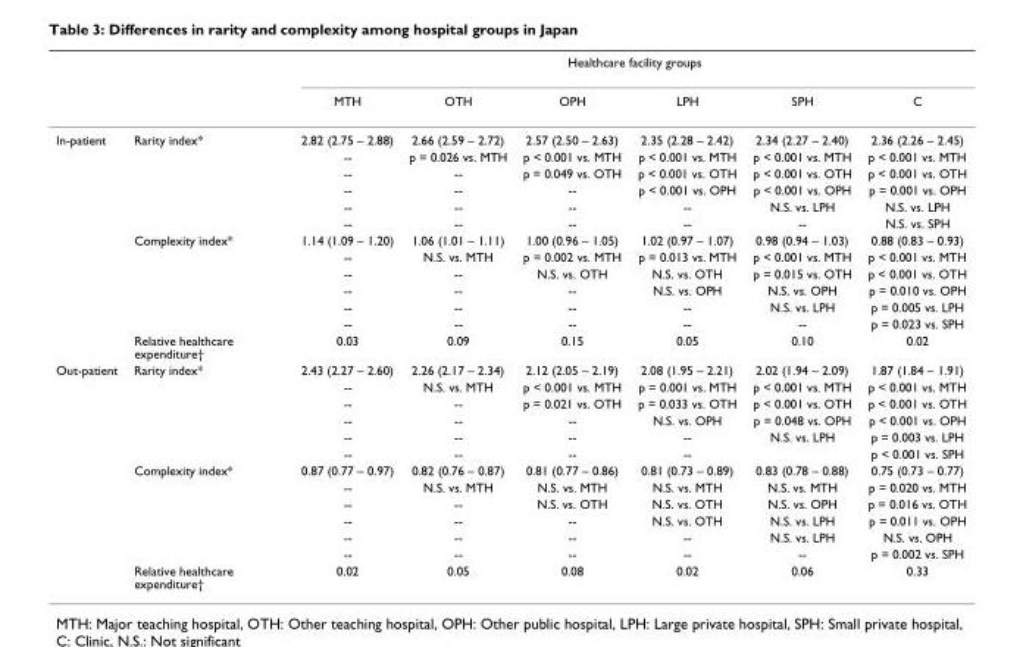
<table><thead><tr><td rowspan="2"></td><td rowspan="2"></td><td colspan="6">Healthcare facility groups</td></tr><tr><td>MTH</td><td>OTH</td><td>OPH</td><td>LPH</td><td>SPH</td><td>C</td></tr></thead><tbody><tr><td rowspan="13">In-patient</td><td>Rarity index*</td><td>2.82 (2.75 – 2.88)</td><td>2.66 (2.59 – 2.72)</td><td>2.57 (2.50 – 2.63)</td><td>2.35 (2.28 – 2.42)</td><td>2.34 (2.27 – 2.40)</td><td>2.36 (2.26 – 2.45)</td></tr><tr><td></td><td>--</td><td>p = 0.026 vs. MTH</td><td>p &lt; 0.001 vs. MTH</td><td>p &lt; 0.001 vs. MTH</td><td>p &lt; 0.001 vs. MTH</td><td>p &lt; 0.001 vs. MTH</td></tr><tr><td></td><td>--</td><td>--</td><td>p = 0.049 vs. OTH</td><td>p &lt; 0.001 vs. OTH</td><td>p &lt; 0.001 vs. OTH</td><td>p &lt; 0.001 vs. OTH</td></tr><tr><td></td><td>--</td><td>--</td><td>--</td><td>p &lt; 0.001 vs. OPH</td><td>p &lt; 0.001 vs. OPH</td><td>p = 0.001 vs. OPH</td></tr><tr><td></td><td>--</td><td>--</td><td>--</td><td>--</td><td>N.S. vs. LPH</td><td>N.S. vs. LPH</td></tr><tr><td></td><td>--</td><td>--</td><td>--</td><td>--</td><td>--</td><td>N.S. vs. SPH</td></tr><tr><td>Complexity index*</td><td>1.14 (1.09 – 1.20)</td><td>1.06 (1.01 – 1.11)</td><td>1.00 (0.96 – 1.05)</td><td>1.02 (0.97 – 1.07)</td><td>0.98 (0.94 – 1.03)</td><td>0.88 (0.83 – 0.93)</td></tr><tr><td></td><td>--</td><td>N.S. vs. MTH</td><td>p = 0.002 vs. MTH</td><td>p = 0.013 vs. MTH</td><td>p &lt; 0.001 vs. MTH</td><td>p &lt; 0.001 vs. MTH</td></tr><tr><td></td><td>--</td><td>--</td><td>N.S. vs. OTH</td><td>N.S. vs. OTH</td><td>p = 0.015 vs. OTH</td><td>p &lt; 0.001 vs. OTH</td></tr><tr><td></td><td>--</td><td>--</td><td>--</td><td>N.S. vs. OPH</td><td>N.S. vs. OPH</td><td>p = 0.010 vs. OPH</td></tr><tr><td></td><td>--</td><td>--</td><td>--</td><td>--</td><td>N.S. vs. LPH</td><td>p = 0.005 vs. LPH</td></tr><tr><td></td><td>--</td><td>--</td><td>--</td><td>--</td><td>--</td><td>p = 0.023 vs. SPH</td></tr><tr><td>Relative healthcare expenditure†</td><td>0.03</td><td>0.09</td><td>0.15</td><td>0.05</td><td>0.10</td><td>0.02</td></tr><tr><td rowspan="13">Out-patient</td><td>Rarity index*</td><td>2.43 (2.27 – 2.60)</td><td>2.26 (2.17 – 2.34)</td><td>2.12 (2.05 – 2.19)</td><td>2.08 (1.95 – 2.21)</td><td>2.02 (1.94 – 2.09)</td><td>1.87 (1.84 – 1.91)</td></tr><tr><td></td><td>--</td><td>N.S. vs. MTH</td><td>p &lt; 0.001 vs. MTH</td><td>p = 0.001 vs. MTH</td><td>p &lt; 0.001 vs. MTH</td><td>p &lt; 0.001 vs. MTH</td></tr><tr><td></td><td>--</td><td>--</td><td>p = 0.021 vs. OTH</td><td>p = 0.033 vs. OTH</td><td>p &lt; 0.001 vs. OTH</td><td>p &lt; 0.001 vs. OTH</td></tr><tr><td></td><td>--</td><td>--</td><td>--</td><td>N.S. vs. OPH</td><td>p = 0.048 vs. OPH</td><td>p &lt; 0.001 vs. OPH</td></tr><tr><td></td><td>--</td><td>--</td><td>--</td><td>--</td><td>N.S. vs. LPH</td><td>p = 0.003 vs. LPH</td></tr><tr><td></td><td>--</td><td>--</td><td>--</td><td>--</td><td></td><td>p &lt; 0.001 vs. SPH</td></tr><tr><td>Complexity index*</td><td>0.87 (0.77 – 0.97)</td><td>0.82 (0.76 – 0.87)</td><td>0.81 (0.77 – 0.86)</td><td>0.81 (0.73 – 0.89)</td><td>0.83 (0.78 – 0.88)</td><td>0.75 (0.73 – 0.77)</td></tr><tr><td></td><td>--</td><td>N.S. vs. MTH</td><td>N.S. vs. MTH</td><td>N.S. vs. MTH</td><td>N.S. vs. MTH</td><td>p = 0.020 vs. MTH</td></tr><tr><td></td><td>--</td><td>--</td><td>N.S. vs. OTH</td><td>N.S. vs. OTH</td><td>N.S. vs. OPH</td><td>p = 0.016 vs. OTH</td></tr><tr><td></td><td>--</td><td>--</td><td>--</td><td>N.S. vs. OTH</td><td>N.S. vs. LPH</td><td>p = 0.011 vs. OPH</td></tr><tr><td></td><td>--</td><td>--</td><td>--</td><td>--</td><td>N.S. vs. LPH</td><td>N.S. vs. OPH</td></tr><tr><td></td><td>--</td><td>--</td><td>--</td><td>--</td><td>--</td><td>p = 0.002 vs. SPH</td></tr><tr><td>Relative healthcare expenditure†</td><td>0.02</td><td>0.05</td><td>0.08</td><td>0.02</td><td>0.06</td><td>0.33</td></tr></tbody></table>